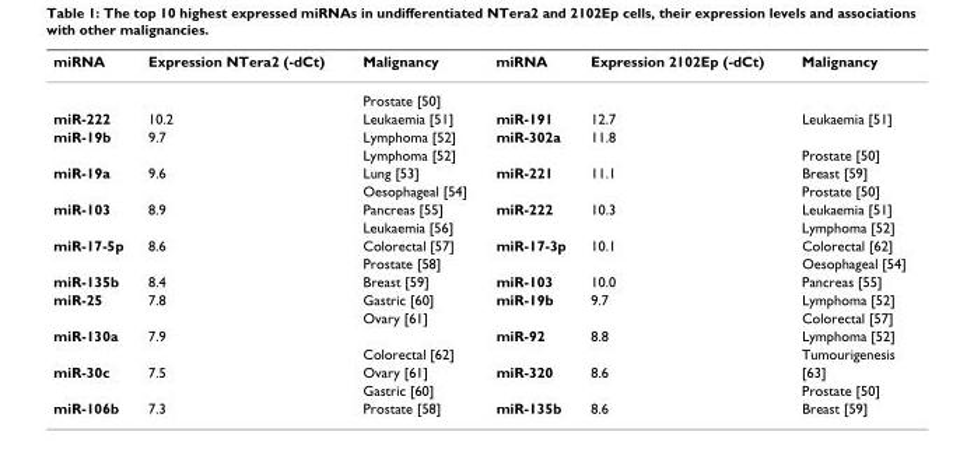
<table><thead><tr><td>miRNA</td><td>Expression NTera2 (-dCt)</td><td>Malignancy</td><td>miRNA</td><td>Expression 2102Ep (-dCt)</td><td>Malignancy</td></tr></thead><tbody><tr><td></td><td></td><td>Prostate [50]</td><td></td><td></td><td></td></tr><tr><td>miR-222</td><td>10.2</td><td>Leukaemia [51]</td><td>miR-191</td><td>12.7</td><td>Leukaemia [51]</td></tr><tr><td rowspan="2">miR-19b</td><td>9.7</td><td>Lymphoma [52]</td><td>miR-302a</td><td>11.8</td><td></td></tr><tr><td></td><td>Lymphoma [52]</td><td></td><td></td><td>Prostate [50]</td></tr><tr><td rowspan="2">miR-19a</td><td>9.6</td><td>Lung [53]</td><td>miR-221</td><td>11.1</td><td>Breast [59]</td></tr><tr><td></td><td>Oesophageal [54]</td><td></td><td></td><td>Prostate [50]</td></tr><tr><td rowspan="2">miR-103</td><td>8.9</td><td>Pancreas [55]</td><td>miR-222</td><td>10.3</td><td>Leukaemia [51]</td></tr><tr><td></td><td>Leukaemia [56]</td><td></td><td></td><td>Lymphoma [52]</td></tr><tr><td rowspan="2">miR-17-5p</td><td>8.6</td><td>Colorectal [57]</td><td>miR-17-3p</td><td>10.1</td><td>Colorectal [62]</td></tr><tr><td></td><td>Prostate [58]</td><td></td><td></td><td>Oesophageal [54]</td></tr><tr><td>miR-135b</td><td>8.4</td><td>Breast [59]</td><td>miR-103</td><td>10.0</td><td>Pancreas [55]</td></tr><tr><td rowspan="2">miR-25</td><td>7.8</td><td>Gastric [60]</td><td>miR-19b</td><td>9.7</td><td>Lymphoma [52]</td></tr><tr><td></td><td>Ovary [61]</td><td></td><td></td><td>Colorectal [57]</td></tr><tr><td rowspan="2">miR-130a</td><td>7.9</td><td></td><td>miR-92</td><td>8.8</td><td>Lymphoma [52]</td></tr><tr><td></td><td>Colorectal [62]</td><td></td><td></td><td>Tumourigenesis</td></tr><tr><td rowspan="2">miR-30c</td><td>7.5</td><td>Ovary [61]</td><td>miR-320</td><td>8.6</td><td>[63]</td></tr><tr><td></td><td>Gastric [60]</td><td></td><td></td><td>Prostate [50]</td></tr><tr><td>miR-106b</td><td>7.3</td><td>Prostate [58]</td><td>miR-135b</td><td>8.6</td><td>Breast [59]</td></tr></tbody></table>